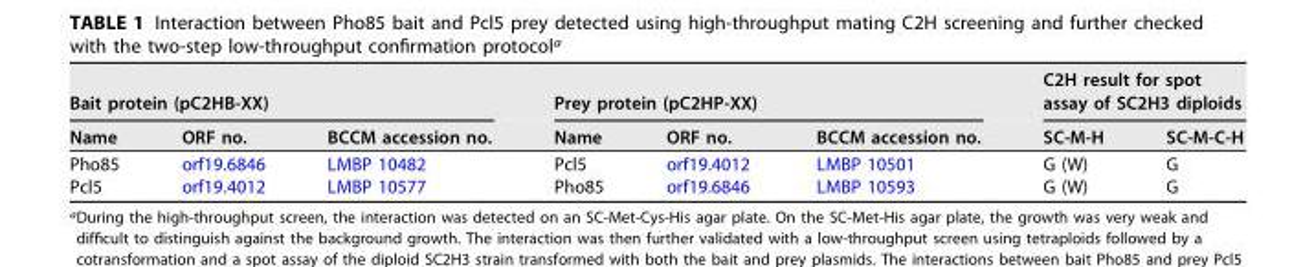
<table><thead><tr><td colspan="3">Bait protein (pC2HB-XX)</td><td colspan="3">Prey protein (pC2HP-XX)</td><td colspan="2">C2H result for spot assay of SC2H3 diploids</td></tr><tr><td>Name</td><td>ORF no.</td><td>BCCM accession no.</td><td>Name</td><td>ORF no.</td><td>BCCM accession no.</td><td>SC-M-H</td><td>SC-M-C-H</td></tr></thead><tbody><tr><td>Pho85</td><td>orf19.6846</td><td>LMBP 10482</td><td>Pcl5</td><td>orf19.4012</td><td>LMBP 10501</td><td>G (W)</td><td>G</td></tr><tr><td>Pcl5</td><td>orf19.4012</td><td>LMBP 10577</td><td>Pho85</td><td>orf19.6846</td><td>LMBP 10593</td><td>G (W)</td><td>G</td></tr></tbody></table>